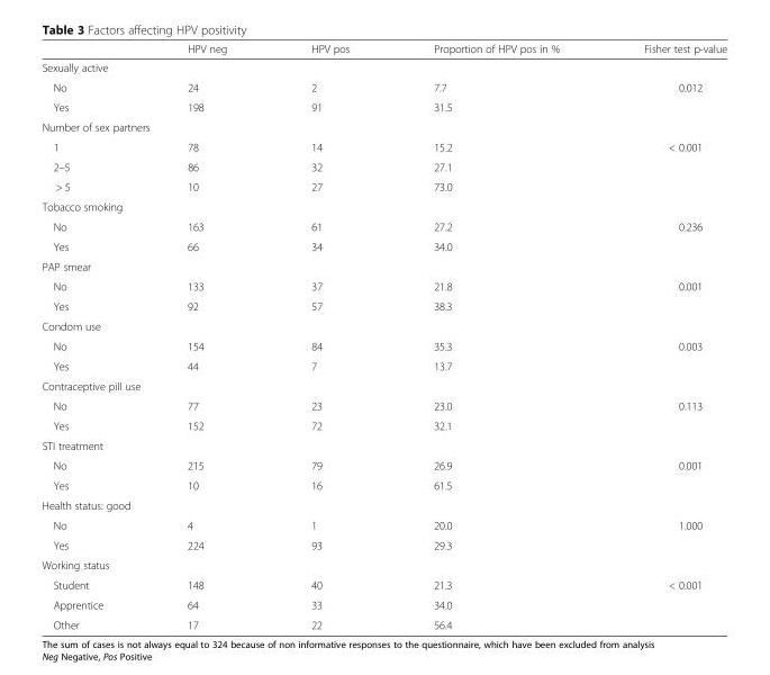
<table><thead><tr><td></td><td>HPV neg</td><td>HPV pos</td><td>Proportion of HPV pos in %</td><td>Fisher test p-value</td></tr></thead><tbody><tr><td colspan="5">Sexually active</td></tr><tr><td>No</td><td>24</td><td>2</td><td>7.7</td><td rowspan="2">0.012</td></tr><tr><td>Yes</td><td>198</td><td>91</td><td>31.5</td></tr><tr><td colspan="5">Number of sex partners</td></tr><tr><td>1</td><td>78</td><td>14</td><td>15.2</td><td rowspan="3">&lt; 0.001</td></tr><tr><td>2–5</td><td>86</td><td>32</td><td>27.1</td></tr><tr><td>&gt; 5</td><td>10</td><td>27</td><td>73.0</td></tr><tr><td colspan="5">Tobacco smoking</td></tr><tr><td>No</td><td>163</td><td>61</td><td>27.2</td><td rowspan="2">0.236</td></tr><tr><td>Yes</td><td>66</td><td>34</td><td>34.0</td></tr><tr><td colspan="5">PAP smear</td></tr><tr><td>No</td><td>133</td><td>37</td><td>21.8</td><td rowspan="2">0.001</td></tr><tr><td>Yes</td><td>92</td><td>57</td><td>38.3</td></tr><tr><td colspan="5">Condom use</td></tr><tr><td>No</td><td>154</td><td>84</td><td>35.3</td><td rowspan="2">0.003</td></tr><tr><td>Yes</td><td>44</td><td>7</td><td>13.7</td></tr><tr><td colspan="5">Contraceptive pill use</td></tr><tr><td>No</td><td>77</td><td>23</td><td>23.0</td><td rowspan="2">0.113</td></tr><tr><td>Yes</td><td>152</td><td>72</td><td>32.1</td></tr><tr><td colspan="5">STI treatment</td></tr><tr><td>No</td><td>215</td><td>79</td><td>26.9</td><td rowspan="2">0.001</td></tr><tr><td>Yes</td><td>10</td><td>16</td><td>61.5</td></tr><tr><td colspan="5">Health status: good</td></tr><tr><td>No</td><td>4</td><td>1</td><td>20.0</td><td rowspan="2">1.000</td></tr><tr><td>Yes</td><td>224</td><td>93</td><td>29.3</td></tr><tr><td colspan="5">Working status</td></tr><tr><td>Student</td><td>148</td><td>40</td><td>21.3</td><td rowspan="3">&lt; 0.001</td></tr><tr><td>Apprentice</td><td>64</td><td>33</td><td>34.0</td></tr><tr><td>Other</td><td>17</td><td>22</td><td>56.4</td></tr></tbody></table>